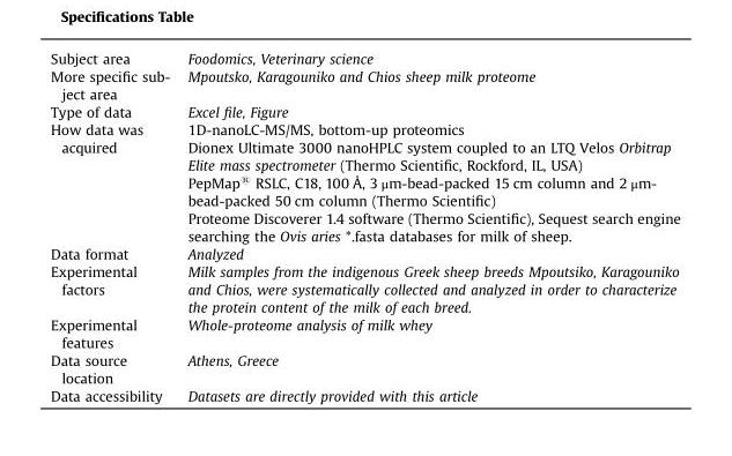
<table><tbody><tr><td>Subject area</td><td>Foodomics, Veterinary science</td></tr><tr><td>More specific sub- ject area</td><td>Mpoutsko, Karagouniko and Chios sheep milk proteome</td></tr><tr><td>Type of data</td><td>Excel file, Figure</td></tr><tr><td rowspan="4">How data was acquired</td><td>1D-nanoLC-MS/MS, bottom-up proteomics</td></tr><tr><td>Dionex Ultimate 3000 nanoHPLC system coupled to an LTQ Velos Orbitrap Elite mass spectrometer (Thermo Scientific, Rockford, IL, USA)</td></tr><tr><td>PepMap® RSLC, C18, 100 Å, 3 μm-bead-packed 15 cm column and 2 μm- bead-packed 50 cm column (Thermo Scientific)</td></tr><tr><td>Proteome Discoverer 1.4 software (Thermo Scientific), Sequest search engine searching the Ovis aries *.fasta databases for milk of sheep.</td></tr><tr><td>Data format</td><td>Analyzed</td></tr><tr><td>Experimental factors</td><td>Milk samples from the indigenous Greek sheep breeds Mpoutsiko, Karagouniko and Chios, were systematically collected and analyzed in order to characterize the protein content of the milk of each breed.</td></tr><tr><td>Experimental features</td><td>Whole-proteome analysis of milk whey</td></tr><tr><td>Data source location</td><td>Athens, Greece</td></tr><tr><td>Data accessibility</td><td>Datasets are directly provided with this article</td></tr></tbody></table>